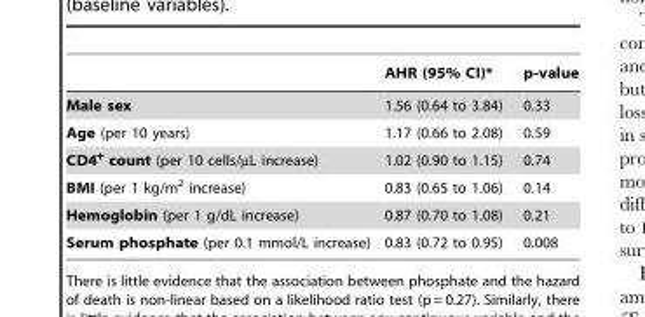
<table><thead><tr><td></td><td>AHR (95% CI)*</td><td>p-value</td></tr></thead><tbody><tr><td>Male sex</td><td>1.56 (0.64 to 3.84)</td><td>0.33</td></tr><tr><td>Age (per 10 years)</td><td>1.17 (0.66 to 2.08)</td><td>0.59</td></tr><tr><td>CD4<sup>+</sup> count (per 10 cells/µL increase)</td><td>1.02 (0.90 to 1.15)</td><td>0.74</td></tr><tr><td>BMI (per 1 kg/m<sup>2</sup> increase)</td><td>0.83 (0.65 to 1.06)</td><td>0.14</td></tr><tr><td>Hemoglobin (per 1 g/dL increase)</td><td>0.87 (0.70 to 1.08)</td><td>0.21</td></tr><tr><td>Serum phosphate (per 0.1 mmol/L increase)</td><td>0.83 (0.72 to 0.95)</td><td>0.008</td></tr></tbody></table>